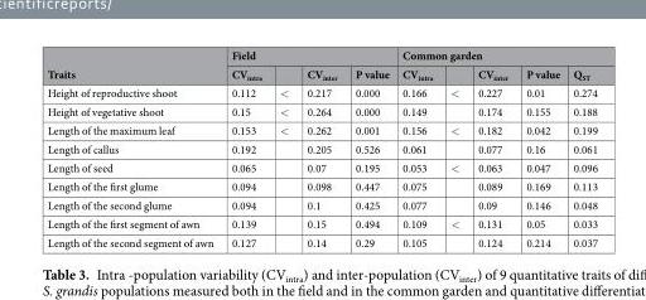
<table><thead><tr><td rowspan="2">Traits</td><td colspan="4">Field</td><td colspan="5">Common garden</td></tr><tr><td>CV<sub>intra</sub></td><td></td><td>CV<sub>inter</sub></td><td>P value</td><td>CV<sub>intra</sub></td><td></td><td>CV<sub>inter</sub></td><td>P value</td><td>Q<sub>ST</sub></td></tr></thead><tbody><tr><td>Height of reproductive shoot</td><td>0.112</td><td>&lt;</td><td>0.217</td><td>0.000</td><td>0.166</td><td>&lt;</td><td>0.227</td><td>0.01</td><td>0.274</td></tr><tr><td>Height of vegetative shoot</td><td>0.15</td><td>&lt;</td><td>0.264</td><td>0.000</td><td>0.149</td><td></td><td>0.174</td><td>0.155</td><td>0.188</td></tr><tr><td>Length of the maximum leaf</td><td>0.153</td><td>&lt;</td><td>0.262</td><td>0.001</td><td>0.156</td><td>&lt;</td><td>0.182</td><td>0.042</td><td>0.199</td></tr><tr><td>Length of callus</td><td>0.192</td><td></td><td>0.205</td><td>0.526</td><td>0.061</td><td></td><td>0.077</td><td>0.16</td><td>0.061</td></tr><tr><td>Length of seed</td><td>0.065</td><td></td><td>0.07</td><td>0.195</td><td>0.053</td><td>&lt;</td><td>0.063</td><td>0.047</td><td>0.096</td></tr><tr><td>Length of the first glume</td><td>0.094</td><td></td><td>0.098</td><td>0.447</td><td>0.075</td><td></td><td>0.089</td><td>0.169</td><td>0.113</td></tr><tr><td>Length of the second glume</td><td>0.094</td><td></td><td>0.1</td><td>0.425</td><td>0.077</td><td></td><td>0.09</td><td>0.146</td><td>0.048</td></tr><tr><td>Length of the first segment of awn</td><td>0.139</td><td></td><td>0.15</td><td>0.494</td><td>0.109</td><td>&lt;</td><td>0.131</td><td>0.05</td><td>0.033</td></tr><tr><td>Length of the second segment of awn</td><td>0.127</td><td></td><td>0.14</td><td>0.29</td><td>0.105</td><td></td><td>0.124</td><td>0.214</td><td>0.037</td></tr></tbody></table>